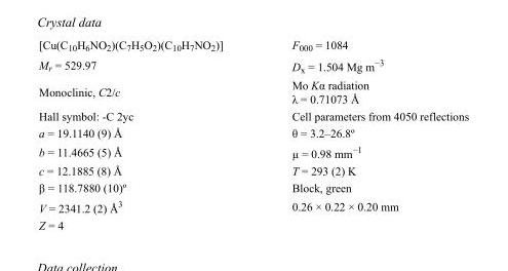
<table><tbody><tr><td>[Cu(C<sub>10</sub>H<sub>6</sub>NO<sub>2</sub>)(C<sub>7</sub>H<sub>5</sub>O<sub>2</sub>)(C<sub>10</sub>H<sub>7</sub>NO<sub>2</sub>)]</td><td>F<sub>000</sub> = 1084</td></tr><tr><td>M<sub>r</sub> = 529.97</td><td>D<sub>x</sub> = 1.504 Mg m<sup>−3</sup></td></tr><tr><td>Monoclinic, C2/c</td><td>Mo Kα radiation λ = 0.71073 Å</td></tr><tr><td>Hall symbol: -C 2yc</td><td>Cell parameters from 4050 reflections</td></tr><tr><td>a = 19.1140 (9) Å</td><td>θ = 3.2–26.8º</td></tr><tr><td>b = 11.4665 (5) Å</td><td>µ = 0.98 mm<sup>−1</sup></td></tr><tr><td>c = 12.1885 (8) Å</td><td>T = 293 (2) K</td></tr><tr><td>β = 118.7880 (10)º</td><td>Block, green</td></tr><tr><td>V = 2341.2 (2) Å<sup>3</sup></td><td>0.26 × 0.22 × 0.20 mm</td></tr><tr><td>Z = 4</td><td></td></tr></tbody></table>